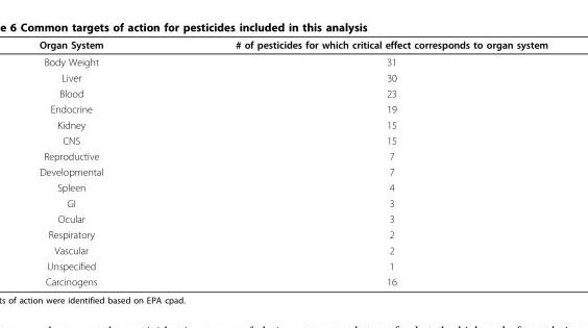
<table><thead><tr><td>Organ System</td><td># of pesticides for which critical effect corresponds to organ system</td></tr></thead><tbody><tr><td>Body Weight</td><td>31</td></tr><tr><td>Liver</td><td>30</td></tr><tr><td>Blood</td><td>23</td></tr><tr><td>Endocrine</td><td>19</td></tr><tr><td>Kidney</td><td>15</td></tr><tr><td>CNS</td><td>15</td></tr><tr><td>Reproductive</td><td>7</td></tr><tr><td>Developmental</td><td>7</td></tr><tr><td>Spleen</td><td>4</td></tr><tr><td>GI</td><td>3</td></tr><tr><td>Ocular</td><td>3</td></tr><tr><td>Respiratory</td><td>2</td></tr><tr><td>Vascular</td><td>2</td></tr><tr><td>Unspecified</td><td>1</td></tr><tr><td>Carcinogens</td><td>16</td></tr></tbody></table>